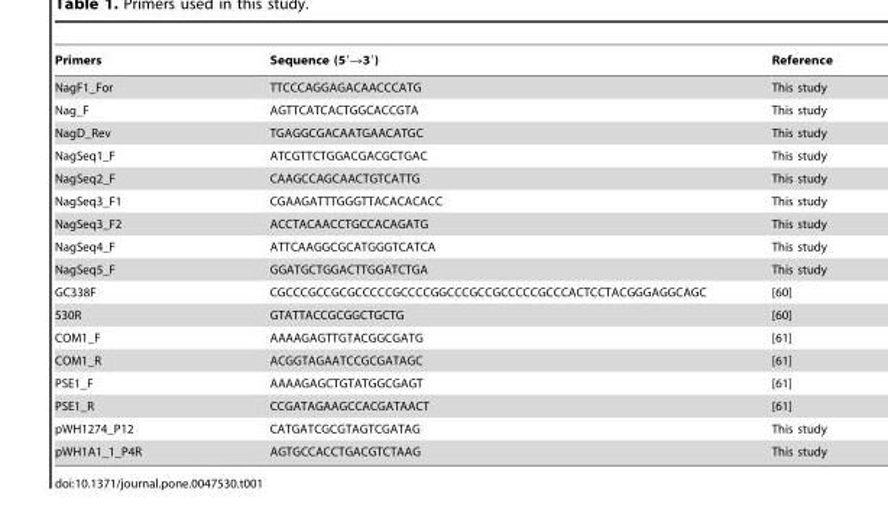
<table><thead><tr><td>Primers</td><td>Sequence (5′→3′)</td><td>Reference</td></tr></thead><tbody><tr><td>NagF1_For</td><td>TTCCCAGGAGACAACCCATG</td><td>This study</td></tr><tr><td>Nag_F</td><td>AGTTCATCACTGGCACCGTA</td><td>This study</td></tr><tr><td>NagD_Rev</td><td>TGAGGCGACAATGAACATGC</td><td>This study</td></tr><tr><td>NagSeq1_F</td><td>ATCGTTCTGGACGACGCTGAC</td><td>This study</td></tr><tr><td>NagSeq2_F</td><td>CAAGCCAGCAACTGTCATTG</td><td>This study</td></tr><tr><td>NagSeq3_F1</td><td>CGAAGATTTGGGTTACACACACC</td><td>This study</td></tr><tr><td>NagSeq3_F2</td><td>ACCTACAACCTGCCACAGATG</td><td>This study</td></tr><tr><td>NagSeq4_F</td><td>ATTCAAGGCGCATGGGTCATCA</td><td>This study</td></tr><tr><td>NagSeq5_F</td><td>GGATGCTGGACTTGGATCTGA</td><td>This study</td></tr><tr><td>GC338F</td><td>CGCCCGCCGCGCCCCCGCCCCGGCCCGCCGCCCCCGCCCACTCCTACGGGAGGCAGC</td><td>[60]</td></tr><tr><td>530R</td><td>GTATTACCGCGGCTGCTG</td><td>[60]</td></tr><tr><td>COM1_F</td><td>AAAAGAGTTGTACGGCGATG</td><td>[61]</td></tr><tr><td>COM1_R</td><td>ACGGTAGAATCCGCGATAGC</td><td>[61]</td></tr><tr><td>PSE1_F</td><td>AAAAGAGCTGTATGGCGAGT</td><td>[61]</td></tr><tr><td>PSE1_R</td><td>CCGATAGAAGCCACGATAACT</td><td>[61]</td></tr><tr><td>pWH1274_P12</td><td>CATGATCGCGTAGTCGATAG</td><td>This study</td></tr><tr><td>pWH1A1_1_P4R</td><td>AGTGCCACCTGACGTCTAAG</td><td>This study</td></tr></tbody></table>